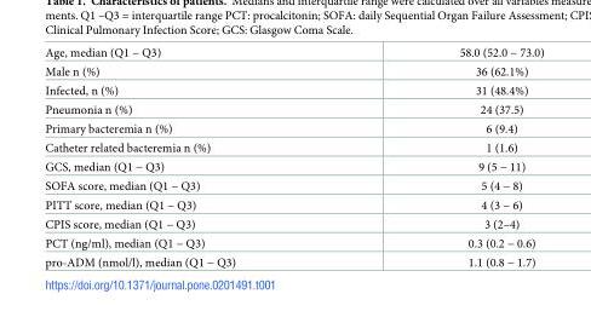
<table><tbody><tr><td>Age, median (Q1 − Q3)</td><td>58.0 (52.0 − 73.0)</td></tr><tr><td>Male n (%)</td><td>36 (62.1%)</td></tr><tr><td>Infected, n (%)</td><td>31 (48.4%)</td></tr><tr><td>Pneumonia n (%)</td><td>24 (37.5)</td></tr><tr><td>Primary bacteremia n (%)</td><td>6 (9.4)</td></tr><tr><td>Catheter related bacteremia n (%)</td><td>1 (1.6)</td></tr><tr><td>GCS, median (Q1 − Q3)</td><td>9 (5 − 11)</td></tr><tr><td>SOFA score, median (Q1 − Q3)</td><td>5 (4 − 8)</td></tr><tr><td>PITT score, median (Q1 − Q3)</td><td>4 (3 − 6)</td></tr><tr><td>CPIS score, median (Q1 − Q3)</td><td>3 (2–4)</td></tr><tr><td>PCT (ng/ml), median (Q1 − Q3)</td><td>0.3 (0.2 − 0.6)</td></tr><tr><td>pro-ADM (nmol/l), median (Q1 − Q3)</td><td>1.1 (0.8 − 1.7)</td></tr></tbody></table>